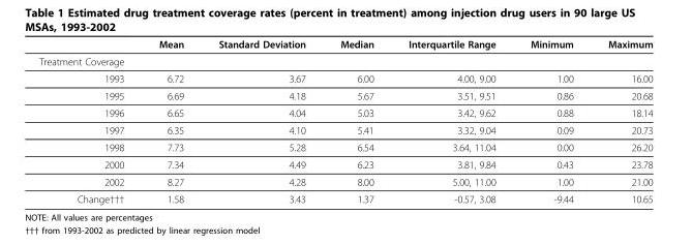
<table><thead><tr><td></td><td>Mean</td><td>Standard Deviation</td><td>Median</td><td>Interquartile Range</td><td>Minimum</td><td>Maximum</td></tr></thead><tbody><tr><td colspan="7">Treatment Coverage</td></tr><tr><td>1993</td><td>6.72</td><td>3.67</td><td>6.00</td><td>4.00, 9.00</td><td>1.00</td><td>16.00</td></tr><tr><td>1995</td><td>6.69</td><td>4.18</td><td>5.67</td><td>3.51, 9.51</td><td>0.86</td><td>20.68</td></tr><tr><td>1996</td><td>6.65</td><td>4.04</td><td>5.03</td><td>3.42, 9.62</td><td>0.88</td><td>18.14</td></tr><tr><td>1997</td><td>6.35</td><td>4.10</td><td>5.41</td><td>3.32, 9.04</td><td>0.09</td><td>20.73</td></tr><tr><td>1998</td><td>7.73</td><td>5.28</td><td>6.54</td><td>3.64, 11.04</td><td>0.00</td><td>26.20</td></tr><tr><td>2000</td><td>7.34</td><td>4.49</td><td>6.23</td><td>3.81, 9.84</td><td>0.43</td><td>23.78</td></tr><tr><td>2002</td><td>8.27</td><td>4.28</td><td>8.00</td><td>5.00, 11.00</td><td>1.00</td><td>21.00</td></tr><tr><td>Change†††</td><td>1.58</td><td>3.43</td><td>1.37</td><td>-0.57, 3.08</td><td>-9.44</td><td>10.65</td></tr></tbody></table>